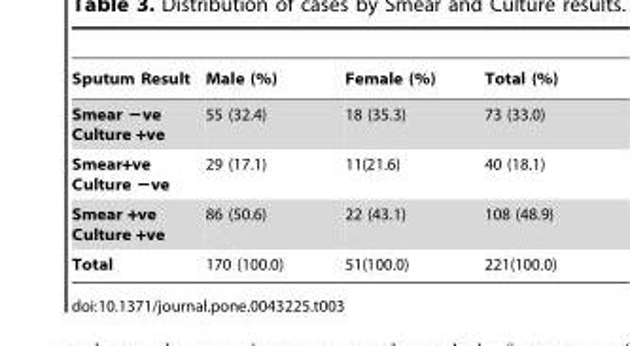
<table><thead><tr><td>Sputum Result</td><td>Male (%)</td><td>Female (%)</td><td>Total (%)</td></tr></thead><tbody><tr><td>Smear −ve Culture +ve</td><td>55 (32.4)</td><td>18 (35.3)</td><td>73 (33.0)</td></tr><tr><td>Smear+ve Culture −ve</td><td>29 (17.1)</td><td>11(21.6)</td><td>40 (18.1)</td></tr><tr><td>Smear +ve Culture +ve</td><td>86 (50.6)</td><td>22 (43.1)</td><td>108 (48.9)</td></tr><tr><td>Total</td><td>170 (100.0)</td><td>51(100.0)</td><td>221(100.0)</td></tr></tbody></table>